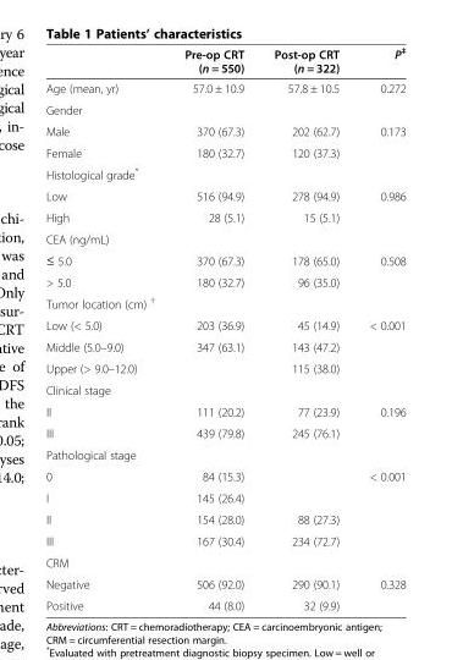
<table><thead><tr><td></td><td>Pre-op CRT (n = 550)</td><td>Post-op CRT (n = 322)</td><td>P<sup>‡</sup></td></tr></thead><tbody><tr><td>Age (mean, yr)</td><td>57.0 ± 10.9</td><td>57.8 ± 10.5</td><td>0.272</td></tr><tr><td colspan="4">Gender</td></tr><tr><td>Male</td><td>370 (67.3)</td><td>202 (62.7)</td><td>0.173</td></tr><tr><td>Female</td><td>180 (32.7)</td><td>120 (37.3)</td><td></td></tr><tr><td colspan="4">Histological grade*</td></tr><tr><td>Low</td><td>516 (94.9)</td><td>278 (94.9)</td><td>0.986</td></tr><tr><td>High</td><td>28 (5.1)</td><td>15 (5.1)</td><td></td></tr><tr><td colspan="4">CEA (ng/mL)</td></tr><tr><td>≤ 5.0</td><td>370 (67.3)</td><td>178 (65.0)</td><td>0.508</td></tr><tr><td>&gt; 5.0</td><td>180 (32.7)</td><td>96 (35.0)</td><td></td></tr><tr><td colspan="4">Tumor location (cm) <sup>†</sup></td></tr><tr><td>Low (&lt; 5.0)</td><td>203 (36.9)</td><td>45 (14.9)</td><td>&lt; 0.001</td></tr><tr><td>Middle (5.0–9.0)</td><td>347 (63.1)</td><td>143 (47.2)</td><td></td></tr><tr><td>Upper (&gt; 9.0–12.0)</td><td></td><td>115 (38.0)</td><td></td></tr><tr><td colspan="4">Clinical stage</td></tr><tr><td>II</td><td>111 (20.2)</td><td>77 (23.9)</td><td>0.196</td></tr><tr><td>III</td><td>439 (79.8)</td><td>245 (76.1)</td><td></td></tr><tr><td colspan="4">Pathological stage</td></tr><tr><td>0</td><td>84 (15.3)</td><td></td><td>&lt; 0.001</td></tr><tr><td>I</td><td>145 (26.4)</td><td></td><td></td></tr><tr><td>II</td><td>154 (28.0)</td><td>88 (27.3)</td><td></td></tr><tr><td>III</td><td>167 (30.4)</td><td>234 (72.7)</td><td></td></tr><tr><td colspan="4">CRM</td></tr><tr><td>Negative</td><td>506 (92.0)</td><td>290 (90.1)</td><td>0.328</td></tr><tr><td>Positive</td><td>44 (8.0)</td><td>32 (9.9)</td><td></td></tr></tbody></table>